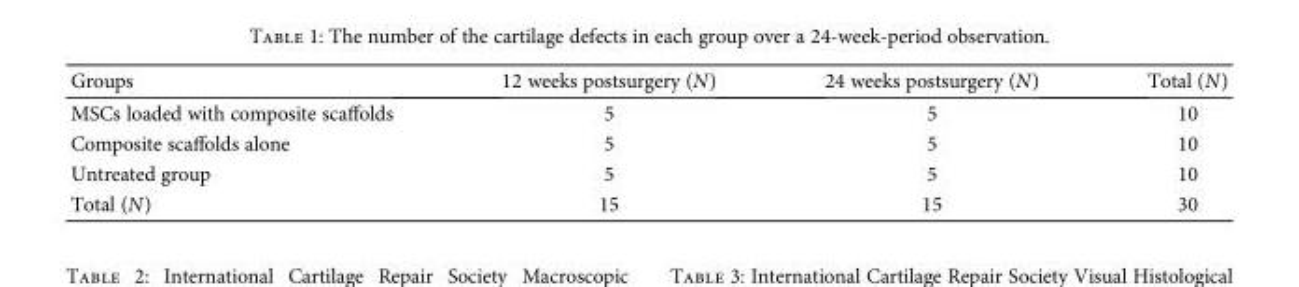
<table><thead><tr><td>Groups</td><td>12 weeks postsurgery (N)</td><td>24 weeks postsurgery (N)</td><td>Total (N)</td></tr></thead><tbody><tr><td>MSCs loaded with composite scaffolds</td><td>5</td><td>5</td><td>10</td></tr><tr><td>Composite scaffolds alone</td><td>5</td><td>5</td><td>10</td></tr><tr><td>Untreated group</td><td>5</td><td>5</td><td>10</td></tr><tr><td>Total (N)</td><td>15</td><td>15</td><td>30</td></tr></tbody></table>